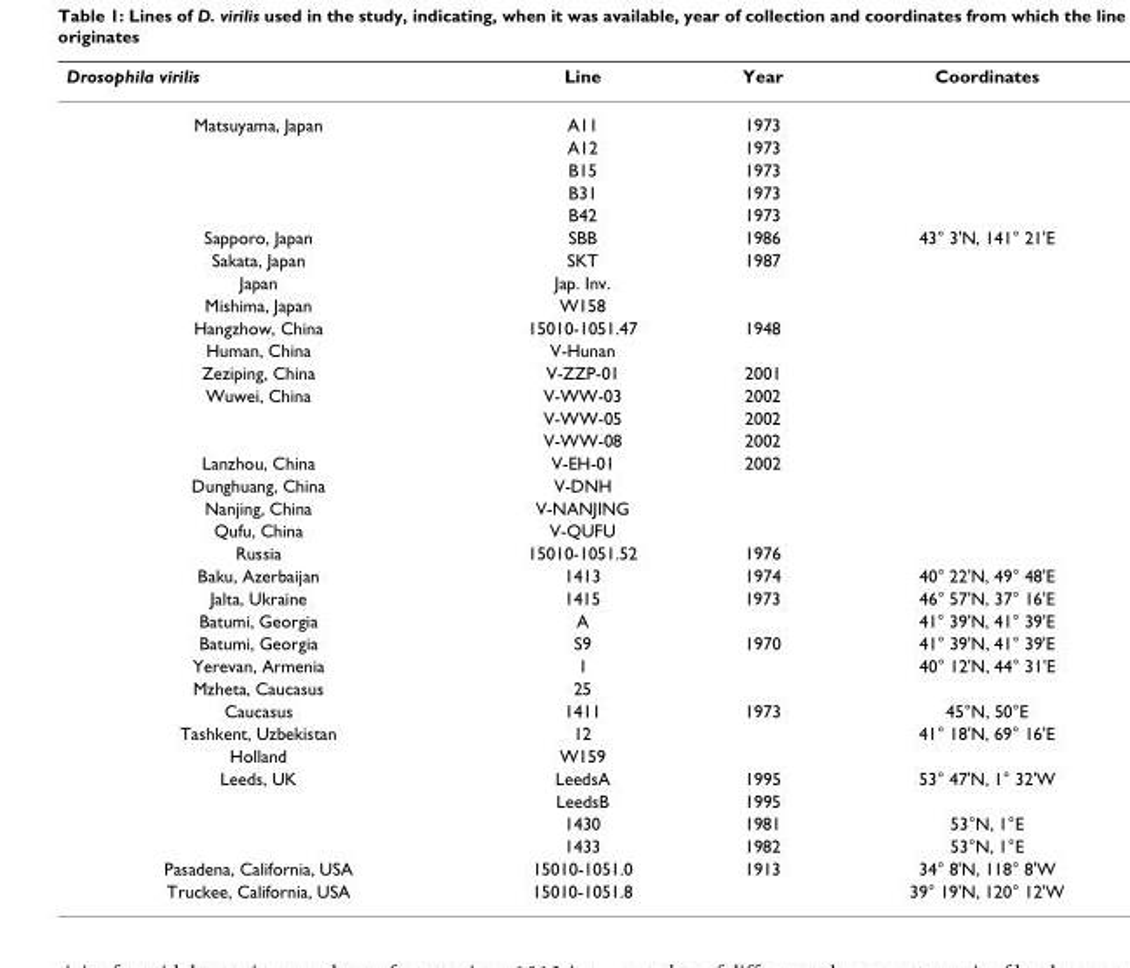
<table><thead><tr><td>Drosophila virilis</td><td>Line</td><td>Year</td><td>Coordinates</td></tr></thead><tbody><tr><td rowspan="5">Matsuyama, Japan</td><td>A11</td><td>1973</td><td></td></tr><tr><td>A12</td><td>1973</td><td></td></tr><tr><td>B15</td><td>1973</td><td></td></tr><tr><td>B31</td><td>1973</td><td></td></tr><tr><td>B42</td><td>1973</td><td></td></tr><tr><td>Sapporo, Japan</td><td>SBB</td><td>1986</td><td>43° 3&#x27;N, 141° 21&#x27;E</td></tr><tr><td>Sakata, Japan</td><td>SKT</td><td>1987</td><td></td></tr><tr><td>Japan</td><td>Jap. Inv.</td><td></td><td></td></tr><tr><td>Mishima, Japan</td><td>W158</td><td></td><td></td></tr><tr><td>Hangzhow, China</td><td>15010-1051.47</td><td>1948</td><td></td></tr><tr><td>Human, China</td><td>V-Hunan</td><td></td><td></td></tr><tr><td>Zeziping, China</td><td>V-ZZP-01</td><td>2001</td><td></td></tr><tr><td rowspan="3">Wuwei, China</td><td>V-WW-03</td><td>2002</td><td></td></tr><tr><td>V-WW-05</td><td>2002</td><td></td></tr><tr><td>V-WW-08</td><td>2002</td><td></td></tr><tr><td>Lanzhou, China</td><td>V-EH-01</td><td>2002</td><td></td></tr><tr><td>Dunghuang, China</td><td>V-DNH</td><td></td><td></td></tr><tr><td>Nanjing, China</td><td>V-NANJING</td><td></td><td></td></tr><tr><td>Qufu, China</td><td>V-QUFU</td><td></td><td></td></tr><tr><td>Russia</td><td>15010-1051.52</td><td>1976</td><td></td></tr><tr><td>Baku, Azerbaijan</td><td>1413</td><td>1974</td><td>40° 22&#x27;N, 49° 48&#x27;E</td></tr><tr><td>Jalta, Ukraine</td><td>1415</td><td>1973</td><td>46° 57&#x27;N, 37° 16&#x27;E</td></tr><tr><td>Batumi, Georgia</td><td>A</td><td></td><td>41° 39&#x27;N, 41° 39&#x27;E</td></tr><tr><td>Batumi, Georgia</td><td>S9</td><td>1970</td><td>41° 39&#x27;N, 41° 39&#x27;E</td></tr><tr><td>Yerevan, Armenia</td><td>1</td><td></td><td>40° 12&#x27;N, 44° 31&#x27;E</td></tr><tr><td>Mzheta, Caucasus</td><td>25</td><td></td><td></td></tr><tr><td>Caucasus</td><td>1411</td><td>1973</td><td>45°N, 50°E</td></tr><tr><td>Tashkent, Uzbekistan</td><td>12</td><td></td><td>41° 18&#x27;N, 69° 16&#x27;E</td></tr><tr><td>Holland</td><td>W159</td><td></td><td></td></tr><tr><td rowspan="4">Leeds, UK</td><td>LeedsA</td><td>1995</td><td>53° 47&#x27;N, 1° 32&#x27;W</td></tr><tr><td>LeedsB</td><td>1995</td><td></td></tr><tr><td>1430</td><td>1981</td><td>53°N, 1°E</td></tr><tr><td>1433</td><td>1982</td><td>53°N, 1°E</td></tr><tr><td>Pasadena, California, USA</td><td>15010-1051.0</td><td>1913</td><td>34° 8&#x27;N, 118° 8&#x27;W</td></tr><tr><td>Truckee, California, USA</td><td>15010-1051.8</td><td></td><td>39° 19&#x27;N, 120° 12&#x27;W</td></tr></tbody></table>